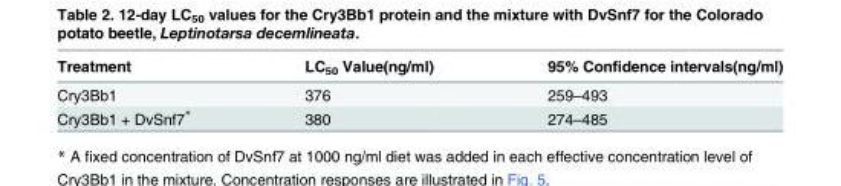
<table><thead><tr><td>Treatment</td><td>LC<sub>50</sub> Value(ng/ml)</td><td>95% Confidence intervals(ng/ml)</td></tr></thead><tbody><tr><td>Cry3Bb1</td><td>376</td><td>259–493</td></tr><tr><td>Cry3Bb1 + DvSnf7*</td><td>380</td><td>274–485</td></tr></tbody></table>